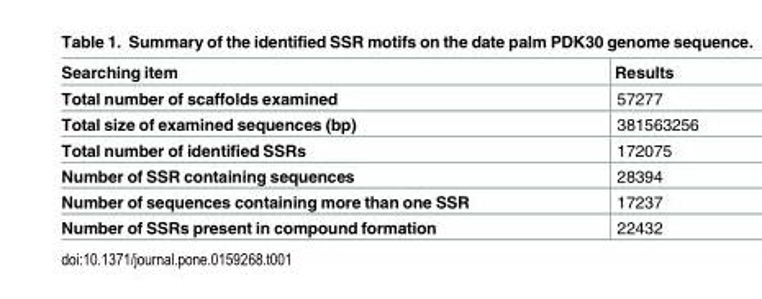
<table><thead><tr><td>Searching item</td><td>Results</td></tr></thead><tbody><tr><td>Total number of scaffolds examined</td><td>57277</td></tr><tr><td>Total size of examined sequences (bp)</td><td>381563256</td></tr><tr><td>Total number of identified SSRs</td><td>172075</td></tr><tr><td>Number of SSR containing sequences</td><td>28394</td></tr><tr><td>Number of sequences containing more than one SSR</td><td>17237</td></tr><tr><td>Number of SSRs present in compound formation</td><td>22432</td></tr></tbody></table>